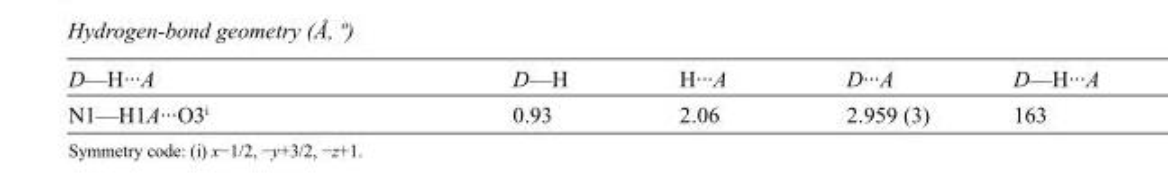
<table><tbody><tr><td>D—H···A</td><td>D—H</td><td>H···A</td><td>D···A</td><td>D—H···A</td></tr><tr><td>N1—H1A···O3<sup>i</sup></td><td>0.93</td><td>2.06</td><td>2.959 (3)</td><td>163</td></tr></tbody></table>